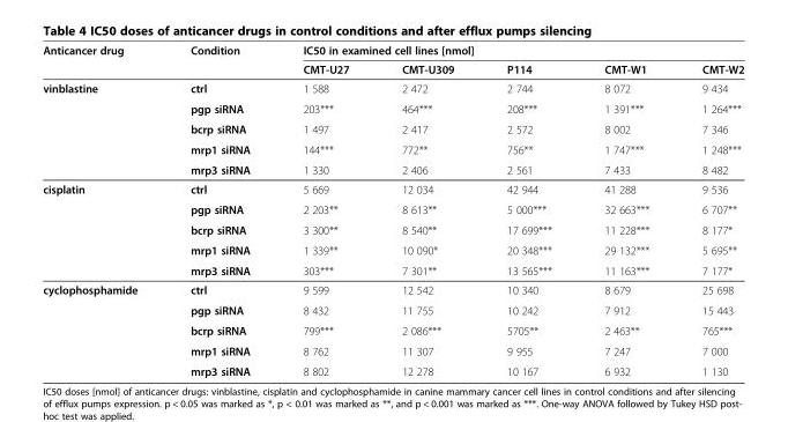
<table><thead><tr><td rowspan="2">Anticancer drug</td><td rowspan="2">Condition</td><td colspan="5">IC50 in examined cell lines [nmol]</td></tr><tr><td>CMT-U27</td><td>CMT-U309</td><td>P114</td><td>CMT-W1</td><td>CMT-W2</td></tr></thead><tbody><tr><td rowspan="5">vinblastine</td><td>ctrl</td><td>1 588</td><td>2 472</td><td>2 744</td><td>8 072</td><td>9 434</td></tr><tr><td>pgp siRNA</td><td>203***</td><td>464***</td><td>208***</td><td>1 391***</td><td>1 264***</td></tr><tr><td>bcrp siRNA</td><td>1 497</td><td>2 417</td><td>2 572</td><td>8 002</td><td>7 346</td></tr><tr><td>mrp1 siRNA</td><td>144***</td><td>772**</td><td>756**</td><td>1 747***</td><td>1 248***</td></tr><tr><td>mrp3 siRNA</td><td>1 330</td><td>2 406</td><td>2 561</td><td>7 433</td><td>8 482</td></tr><tr><td rowspan="5">cisplatin</td><td>ctrl</td><td>5 669</td><td>12 034</td><td>42 944</td><td>41 288</td><td>9 536</td></tr><tr><td>pgp siRNA</td><td>2 203**</td><td>8 613**</td><td>5 000***</td><td>32 663***</td><td>6 707**</td></tr><tr><td>bcrp siRNA</td><td>3 300**</td><td>8 540**</td><td>17 699***</td><td>11 228***</td><td>8 177*</td></tr><tr><td>mrp1 siRNA</td><td>1 339**</td><td>10 090*</td><td>20 348***</td><td>29 132***</td><td>5 695**</td></tr><tr><td>mrp3 siRNA</td><td>303***</td><td>7 301**</td><td>13 565***</td><td>11 163***</td><td>7 177*</td></tr><tr><td rowspan="5">cyclophosphamide</td><td>ctrl</td><td>9 599</td><td>12 542</td><td>10 340</td><td>8 679</td><td>25 698</td></tr><tr><td>pgp siRNA</td><td>8 432</td><td>11 755</td><td>10 242</td><td>7 912</td><td>15 443</td></tr><tr><td>bcrp siRNA</td><td>799***</td><td>2 086***</td><td>5705**</td><td>2 463**</td><td>765***</td></tr><tr><td>mrp1 siRNA</td><td>8 762</td><td>11 307</td><td>9 955</td><td>7 247</td><td>7 000</td></tr><tr><td>mrp3 siRNA</td><td>8 802</td><td>12 278</td><td>10 167</td><td>6 932</td><td>1 130</td></tr></tbody></table>